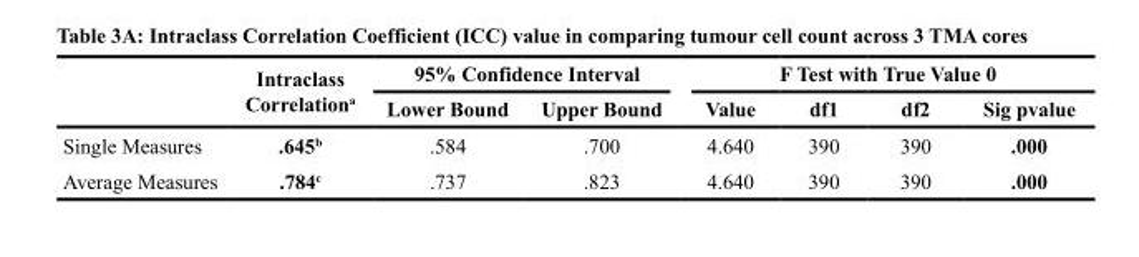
<table><thead><tr><td rowspan="2"></td><td rowspan="2">Intraclass Correlation<sup>a</sup></td><td colspan="2">95% Confidence Interval</td><td colspan="4">F Test with True Value 0</td></tr><tr><td>Lower Bound</td><td>Upper Bound</td><td>Value</td><td>df1</td><td>df2</td><td>Sig pvalue</td></tr></thead><tbody><tr><td>Single Measures</td><td>.645<sup>b</sup></td><td>.584</td><td>.700</td><td>4.640</td><td>390</td><td>390</td><td>.000</td></tr><tr><td>Average Measures</td><td>.784<sup>c</sup></td><td>.737</td><td>.823</td><td>4.640</td><td>390</td><td>390</td><td>.000</td></tr></tbody></table>